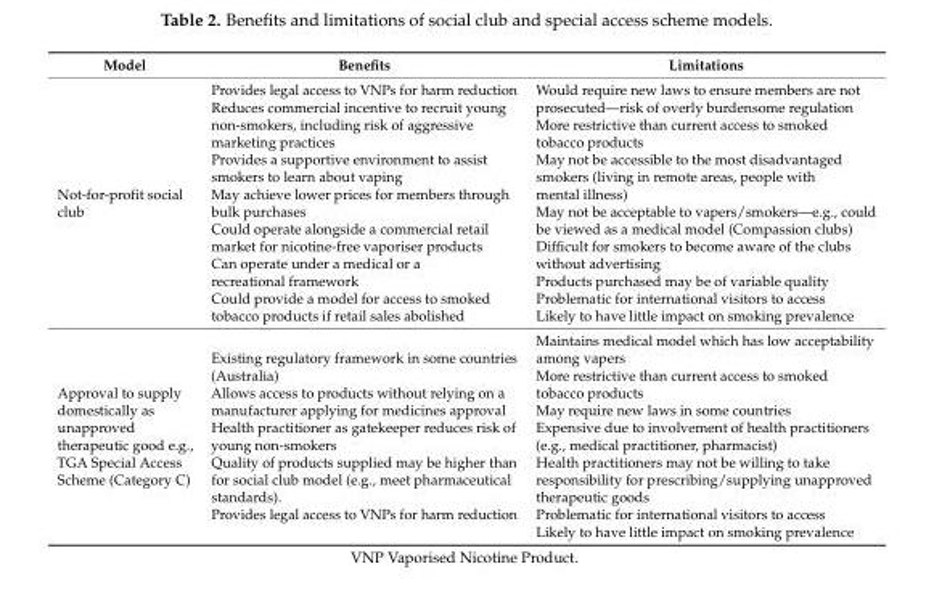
<table><thead><tr><td>Model</td><td>Benefits</td><td>Limitations</td></tr></thead><tbody><tr><td>Not-for-profit social club</td><td>Provides legal access to VNPs for harm reduction Reduces commercial incentive to recruit young non-smokers, including risk of aggressive marketing practices Provides a supportive environment to assist smokers to learn about vaping May achieve lower prices for members through bulk purchases Could operate alongside a commercial retail market for nicotine-free vaporiser products Can operate under a medical or a recreational framework Could provide a model for access to smoked tobacco products if retail sales abolished</td><td>Would require new laws to ensure members are not prosecuted—risk of overly burdensome regulation More restrictive than current access to smoked tobacco products May not be accessible to the most disadvantaged smokers (living in remote areas, people with mental illness) May not be acceptable to vapers/smokers—e.g., could be viewed as a medical model (Compassion clubs) Difficult for smokers to become aware of the clubs without advertising Products purchased may be of variable quality Problematic for international visitors to access Likely to have little impact on smoking prevalence</td></tr><tr><td>Approval to supply domestically as unapproved therapeutic good e.g., TGA Special Access Scheme (Category C)</td><td>Existing regulatory framework in some countries (Australia) Allows access to products without relying on a manufacturer applying for medicines approval Health practitioner as gatekeeper reduces risk of young non-smokers Quality of products supplied may be higher than for social club model (e.g., meet pharmaceutical standards). Provides legal access to VNPs for harm reduction</td><td>Maintains medical model which has low acceptability among vapers More restrictive than current access to smoked tobacco products May require new laws in some countries Expensive due to involvement of health practitioners (e.g., medical practitioner, pharmacist) Health practitioners may not be willing to take responsibility for prescribing/supplying unapproved therapeutic goods Problematic for international visitors to access Likely to have little impact on smoking prevalence</td></tr></tbody></table>